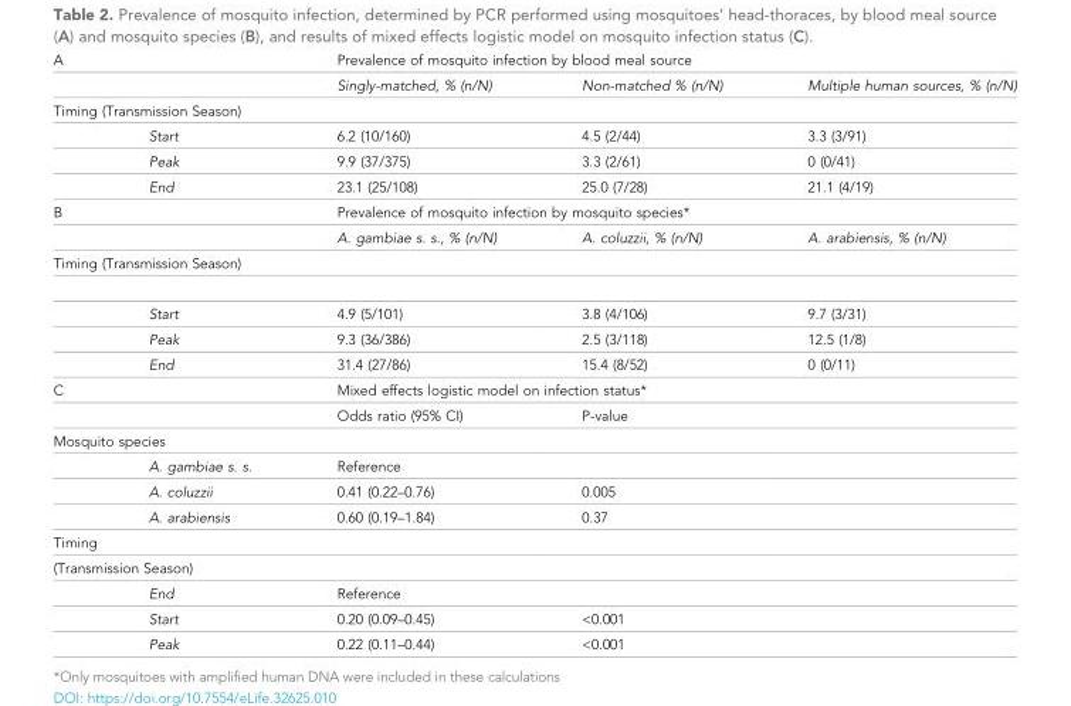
<table><tbody><tr><td rowspan="2">A</td><td></td><td colspan="3">Prevalence of mosquito infection by blood meal source</td></tr><tr><td></td><td>Singly-matched, % (n/N)</td><td>Non-matched % (n/N)</td><td>Multiple human sources, % (n/N)</td></tr><tr><td colspan="5">Timing (Transmission Season)</td></tr><tr><td></td><td>Start</td><td>6.2 (10/160)</td><td>4.5 (2/44)</td><td>3.3 (3/91)</td></tr><tr><td></td><td>Peak</td><td>9.9 (37/375)</td><td>3.3 (2/61)</td><td>0 (0/41)</td></tr><tr><td></td><td>End</td><td>23.1 (25/108)</td><td>25.0 (7/28)</td><td>21.1 (4/19)</td></tr><tr><td rowspan="2">B</td><td></td><td colspan="3">Prevalence of mosquito infection by mosquito species*</td></tr><tr><td></td><td>A. gambiae s. s., % (n/N)</td><td>A. coluzzii, % (n/N)</td><td>A. arabiensis, % (n/N)</td></tr><tr><td colspan="5">Timing (Transmission Season)</td></tr><tr><td></td><td>Start</td><td>4.9 (5/101)</td><td>3.8 (4/106)</td><td>9.7 (3/31)</td></tr><tr><td></td><td>Peak</td><td>9.3 (36/386)</td><td>2.5 (3/118)</td><td>12.5 (1/8)</td></tr><tr><td></td><td>End</td><td>31.4 (27/86)</td><td>15.4 (8/52)</td><td>0 (0/11)</td></tr><tr><td rowspan="2">C</td><td></td><td colspan="3">Mixed effects logistic model on infection status*</td></tr><tr><td></td><td>Odds ratio (95% CI)</td><td>P-value</td><td></td></tr><tr><td colspan="5">Mosquito species</td></tr><tr><td></td><td>A. gambiae s. s.</td><td>Reference</td><td></td><td></td></tr><tr><td></td><td>A. coluzzii</td><td>0.41 (0.22–0.76)</td><td>0.005</td><td></td></tr><tr><td></td><td>A. arabiensis</td><td>0.60 (0.19–1.84)</td><td>0.37</td><td></td></tr><tr><td colspan="5">Timing</td></tr><tr><td colspan="5">(Transmission Season)</td></tr><tr><td></td><td>End</td><td>Reference</td><td></td><td></td></tr><tr><td></td><td>Start</td><td>0.20 (0.09–0.45)</td><td>&lt;0.001</td><td></td></tr><tr><td></td><td>Peak</td><td>0.22 (0.11–0.44)</td><td>&lt;0.001</td><td></td></tr></tbody></table>